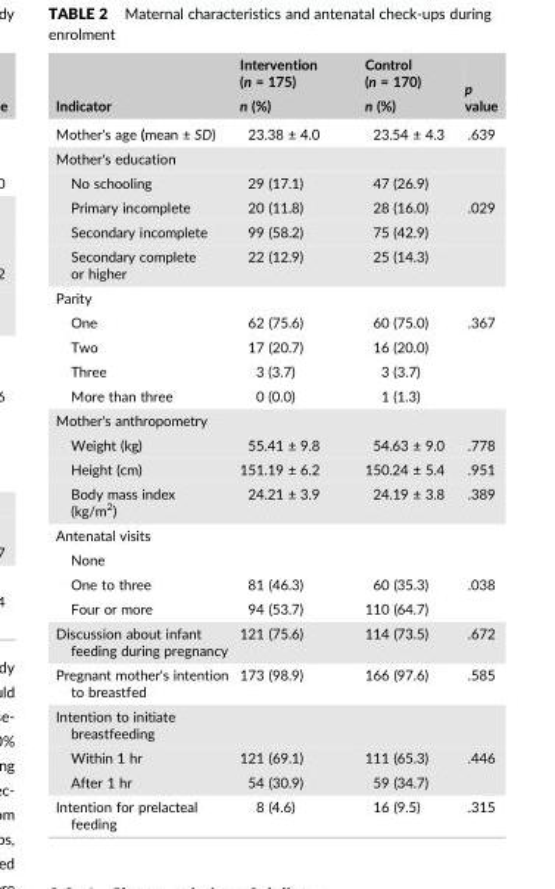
<table><thead><tr><td rowspan="2">Indicator</td><td rowspan="2">Intervention (n = 175) n (%)</td><td rowspan="2">Control (n = 170) n (%)</td><td rowspan="2">p value</td></tr><tr></tr></thead><tbody><tr><td>Mother&#x27;s age (mean ± SD)</td><td>23.38 ± 4.0</td><td>23.54 ± 4.3</td><td>.639</td></tr><tr><td colspan="4">Mother&#x27;s education</td></tr><tr><td>No schooling</td><td>29 (17.1)</td><td>47 (26.9)</td><td></td></tr><tr><td>Primary incomplete</td><td>20 (11.8)</td><td>28 (16.0)</td><td>.029</td></tr><tr><td>Secondary incomplete</td><td>99 (58.2)</td><td>75 (42.9)</td><td></td></tr><tr><td>Secondary complete or higher</td><td>22 (12.9)</td><td>25 (14.3)</td><td></td></tr><tr><td colspan="4">Parity</td></tr><tr><td>One</td><td>62 (75.6)</td><td>60 (75.0)</td><td>.367</td></tr><tr><td>Two</td><td>17 (20.7)</td><td>16 (20.0)</td><td></td></tr><tr><td>Three</td><td>3 (3.7)</td><td>3 (3.7)</td><td></td></tr><tr><td>More than three</td><td>0 (0.0)</td><td>1 (1.3)</td><td></td></tr><tr><td colspan="4">Mother&#x27;s anthropometry</td></tr><tr><td>Weight (kg)</td><td>55.41 ± 9.8</td><td>54.63 ± 9.0</td><td>.778</td></tr><tr><td>Height (cm)</td><td>151.19 ± 6.2</td><td>150.24 ± 5.4</td><td>.951</td></tr><tr><td>Body mass index (kg/m<sup>2</sup>)</td><td>24.21 ± 3.9</td><td>24.19 ± 3.8</td><td>.389</td></tr><tr><td colspan="4">Antenatal visits</td></tr><tr><td colspan="4">None</td></tr><tr><td>One to three</td><td>81 (46.3)</td><td>60 (35.3)</td><td>.038</td></tr><tr><td>Four or more</td><td>94 (53.7)</td><td>110 (64.7)</td><td></td></tr><tr><td>Discussion about infant feeding during pregnancy</td><td>121 (75.6)</td><td>114 (73.5)</td><td>.672</td></tr><tr><td>Pregnant mother&#x27;s intention to breastfed</td><td>173 (98.9)</td><td>166 (97.6)</td><td>.585</td></tr><tr><td colspan="4">Intention to initiate breastfeeding</td></tr><tr><td>Within 1 hr</td><td>121 (69.1)</td><td>111 (65.3)</td><td>.446</td></tr><tr><td>After 1 hr</td><td>54 (30.9)</td><td>59 (34.7)</td><td></td></tr><tr><td>Intention for prelacteal feeding</td><td>8 (4.6)</td><td>16 (9.5)</td><td>.315</td></tr></tbody></table>